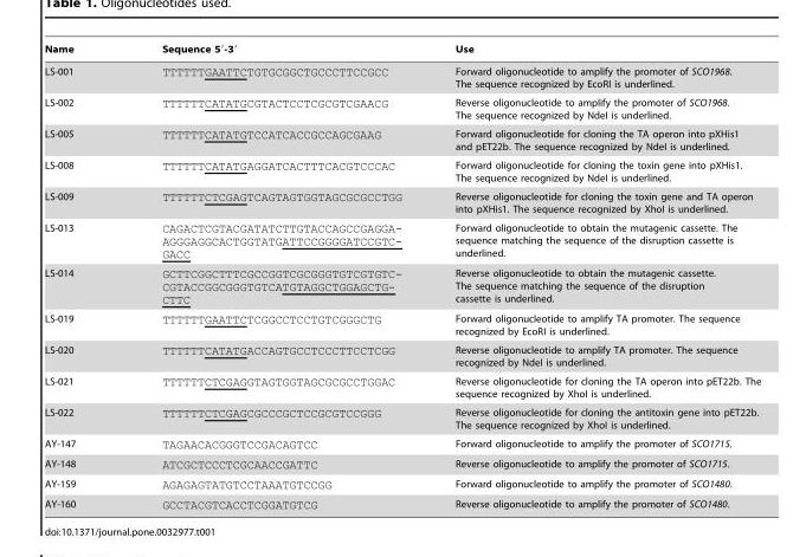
<table><thead><tr><td>Name</td><td>Sequence 5′-3′</td><td>Use</td></tr></thead><tbody><tr><td>LS-001</td><td>TTTTTTGAATTCTGTGCGGCTGCCCTTCCGCC</td><td>Forward oligonucleotide to amplify the promoter of SCO1968. The sequence recognized by EcoRI is underlined.</td></tr><tr><td>LS-002</td><td>TTTTTTCATATGCGTACTCCTCGCGTCGAACG</td><td>Reverse oligonucleotide to amplify the promoter of SCO1968. The sequence recognized by NdeI is underlined.</td></tr><tr><td>LS-005</td><td>TTTTTTCATATGTCCATCACCGCCAGCGAAG</td><td>Forward oligonucleotide for cloning the TA operon into pXHis1 and pET22b. The sequence recognized by NdeI is underlined.</td></tr><tr><td>LS-008</td><td>TTTTTTCATATGAGGATCACTTTCACGTCCCAC</td><td>Forward oligonucleotide for cloning the toxin gene into pXHis1. The sequence recognized by NdeI is underlined.</td></tr><tr><td>LS-009</td><td>TTTTTTCTCGAGTCAGTAGTGGTAGCGCGCCTGG</td><td>Reverse oligonucleotide for cloning the toxin gene and TA operon into pXHis1. The sequence recognized by XhoI is underlined.</td></tr><tr><td>LS-013</td><td>CAGACTCGTACGATATCTTGTACCAGCCGAGGA- AGGGAGGCACTGGTATGATTCCGGGGATCCGTC- GACC</td><td>Forward oligonucleotide to obtain the mutagenic cassette. The sequence matching the sequence of the disruption cassette is underlined.</td></tr><tr><td>LS-014</td><td>GCTTCGGCTTTCGCCGGTCGCGGGTGTCGTGTC- CGTACCGGCGGGTGTCATGTAGGCTGGAGCTG- CTTC</td><td>Reverse oligonucleotide to obtain the mutagenic cassette. The sequence matching the sequence of the disruption cassette is underlined.</td></tr><tr><td>LS-019</td><td>TTTTTTGAATTCTCGGCCTCCTGTCGGGCTG</td><td>Forward oligonucleotide to amplify TA promoter. The sequence recognized by EcoRI is underlined.</td></tr><tr><td>LS-020</td><td>TTTTTTCATATGACCAGTGCCTCCCTTCCTCGG</td><td>Reverse oligonucleotide to amplify TA promoter. The sequence recognized by NdeI is underlined.</td></tr><tr><td>LS-021</td><td>TTTTTTCTCGAGGTAGTGGTAGCGCGCCTGGAC</td><td>Reverse oligonucleotide for cloning the TA operon into pET22b. The sequence recognized by XhoI is underlined.</td></tr><tr><td>LS-022</td><td>TTTTTTCTCGAGCGCCCGCTCCGCGTCCGGG</td><td>Reverse oligonucleotide for cloning the antitoxin gene into pET22b. The sequence recognized by XhoI is underlined.</td></tr><tr><td>AY-147</td><td>TAGAACACGGGTCCGACAGTCC</td><td>Forward oligonucleotide to amplify the promoter of SCO1715.</td></tr><tr><td>AY-148</td><td>ATCGCTCCCTCGCAACCGATTC</td><td>Reverse oligonucleotide to amplify the promoter of SCO1715.</td></tr><tr><td>AY-159</td><td>AGAGAGTATGTCCTAAATGTCCGG</td><td>Forward oligonucleotide to amplify the promoter of SCO1480.</td></tr><tr><td>AY-160</td><td>GCCTACGTCACCTCGGATGTCG</td><td>Reverse oligonucleotide to amplify the promoter of SCO1480.</td></tr></tbody></table>